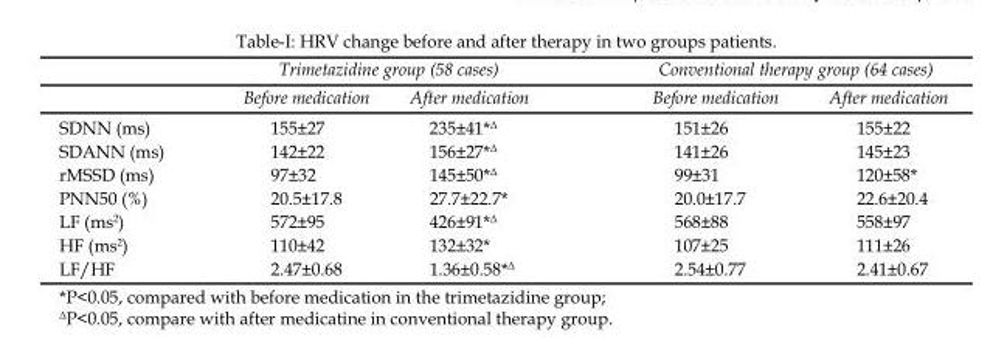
<table><thead><tr><td rowspan="2"></td><td colspan="2">Trimetazidine group (58 cases)</td><td colspan="2">Conventional therapy group (64 cases)</td></tr><tr><td>Before medication</td><td>After medication</td><td>Before medication</td><td>After medication</td></tr></thead><tbody><tr><td>SDNN (ms)</td><td>155±27</td><td>235±41<sup>*Δ</sup></td><td>151±26</td><td>155±22</td></tr><tr><td>SDANN (ms)</td><td>142±22</td><td>156±27<sup>*Δ</sup></td><td>141±26</td><td>145±23</td></tr><tr><td>rMSSD (ms)</td><td>97±32</td><td>145±50<sup>*Δ</sup></td><td>99±31</td><td>120±58*</td></tr><tr><td>PNN50 (%)</td><td>20.5±17.8</td><td>27.7±22.7*</td><td>20.0±17.7</td><td>22.6±20.4</td></tr><tr><td>LF (ms<sup>2</sup>)</td><td>572±95</td><td>426±91<sup>*Δ</sup></td><td>568±88</td><td>558±97</td></tr><tr><td>HF (ms<sup>2</sup>)</td><td>110±42</td><td>132±32*</td><td>107±25</td><td>111±26</td></tr><tr><td>LF/HF</td><td>2.47±0.68</td><td>1.36±0.58<sup>*Δ</sup></td><td>2.54±0.77</td><td>2.41±0.67</td></tr></tbody></table>